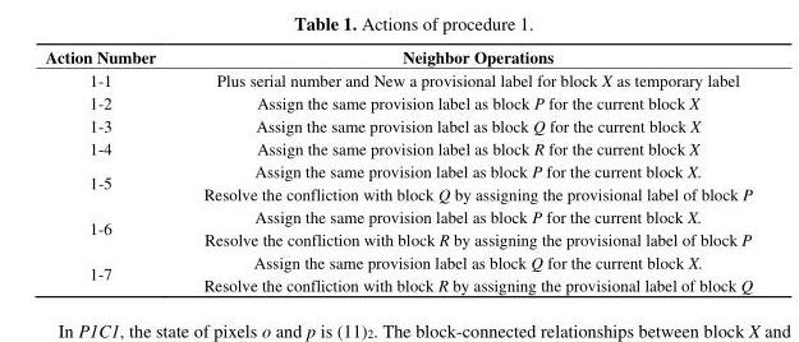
<table><thead><tr><td>Action Number</td><td>Neighbor Operations</td></tr></thead><tbody><tr><td>1-1</td><td>Plus serial number and New a provisional label for block X as temporary label</td></tr><tr><td>1-2</td><td>Assign the same provision label as block P for the current block X</td></tr><tr><td>1-3</td><td>Assign the same provision label as block Q for the current block X</td></tr><tr><td>1-4</td><td>Assign the same provision label as block R for the current block X</td></tr><tr><td>1-5</td><td>Assign the same provision label as block P for the current block X. Resolve the confliction with block Q by assigning the provisional label of block P</td></tr><tr><td>1-6</td><td>Assign the same provision label as block P for the current block X. Resolve the confliction with block R by assigning the provisional label of block P</td></tr><tr><td>1-7</td><td>Assign the same provision label as block Q for the current block X. Resolve the confliction with block R by assigning the provisional label of block Q</td></tr></tbody></table>